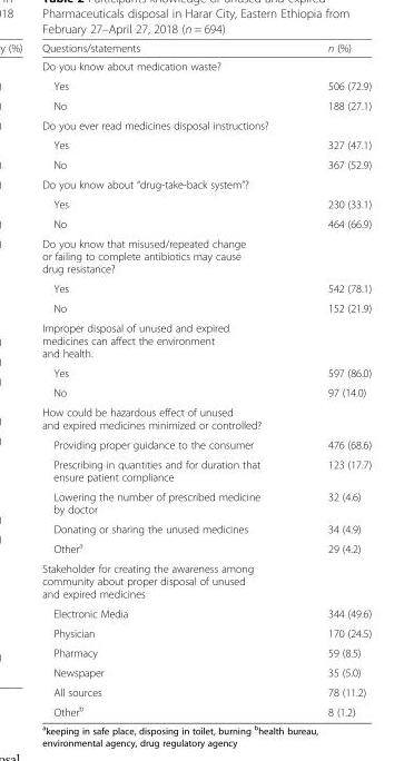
<table><thead><tr><td>Questions/statements</td><td>n (%)</td></tr></thead><tbody><tr><td colspan="2">Do you know about medication waste?</td></tr><tr><td>Yes</td><td>506 (72.9)</td></tr><tr><td>No</td><td>188 (27.1)</td></tr><tr><td colspan="2">Do you ever read medicines disposal instructions?</td></tr><tr><td>Yes</td><td>327 (47.1)</td></tr><tr><td>No</td><td>367 (52.9)</td></tr><tr><td colspan="2">Do you know about “drug-take-back system”?</td></tr><tr><td>Yes</td><td>230 (33.1)</td></tr><tr><td>No</td><td>464 (66.9)</td></tr><tr><td colspan="2">Do you know that misused/repeated change or failing to complete antibiotics may cause drug resistance?</td></tr><tr><td>Yes</td><td>542 (78.1)</td></tr><tr><td>No</td><td>152 (21.9)</td></tr><tr><td colspan="2">Improper disposal of unused and expired medicines can affect the environment and health.</td></tr><tr><td>Yes</td><td>597 (86.0)</td></tr><tr><td>No</td><td>97 (14.0)</td></tr><tr><td colspan="2">How could be hazardous effect of unused and expired medicines minimized or controlled?</td></tr><tr><td>Providing proper guidance to the consumer</td><td>476 (68.6)</td></tr><tr><td>Prescribing in quantities and for duration that ensure patient compliance</td><td>123 (17.7)</td></tr><tr><td>Lowering the number of prescribed medicine by doctor</td><td>32 (4.6)</td></tr><tr><td>Donating or sharing the unused medicines</td><td>34 (4.9)</td></tr><tr><td>Other<sup>a</sup></td><td>29 (4.2)</td></tr><tr><td colspan="2">Stakeholder for creating the awareness among community about proper disposal of unused and expired medicines</td></tr><tr><td>Electronic Media</td><td>344 (49.6)</td></tr><tr><td>Physician</td><td>170 (24.5)</td></tr><tr><td>Pharmacy</td><td>59 (8.5)</td></tr><tr><td>Newspaper</td><td>35 (5.0)</td></tr><tr><td>All sources</td><td>78 (11.2)</td></tr><tr><td>Other<sup>b</sup></td><td>8 (1.2)</td></tr></tbody></table>